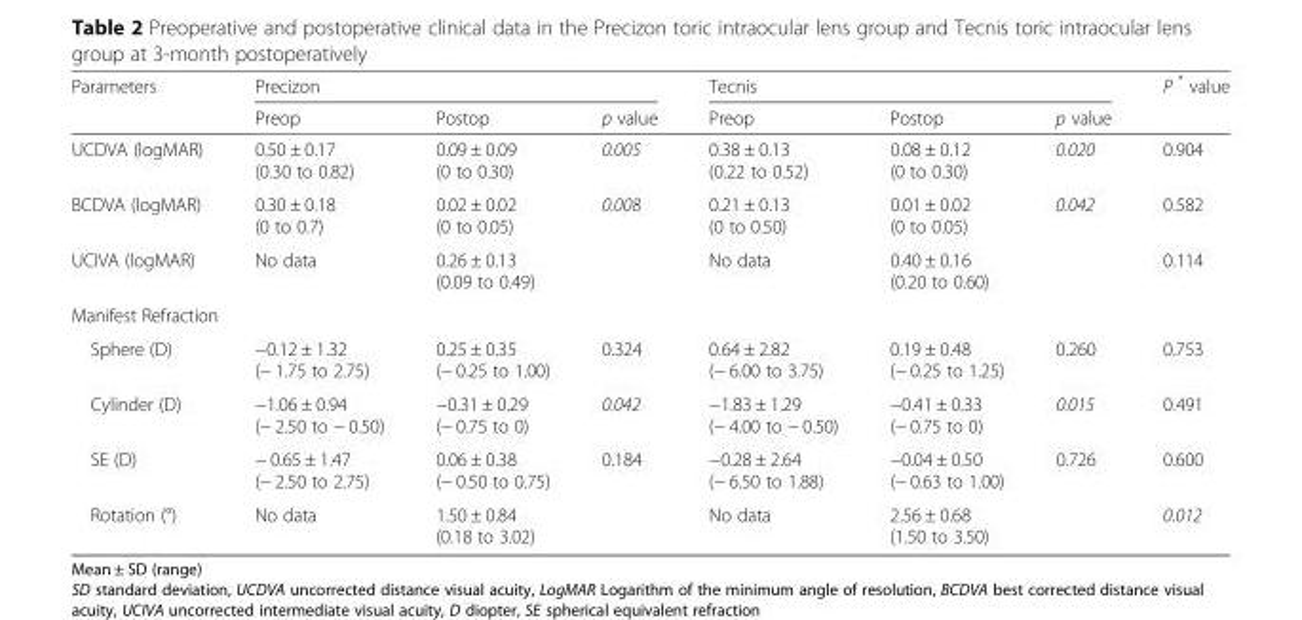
<table><thead><tr><td rowspan="2">Parameters</td><td colspan="3">Precizon</td><td colspan="3">Tecnis</td><td rowspan="2">P * value</td></tr><tr><td>Preop</td><td>Postop</td><td>p value</td><td>Preop</td><td>Postop</td><td>p value</td></tr></thead><tbody><tr><td>UCDVA (logMAR)</td><td>0.50 ± 0.17 (0.30 to 0.82)</td><td>0.09 ± 0.09 (0 to 0.30)</td><td>0.005</td><td>0.38 ± 0.13 (0.22 to 0.52)</td><td>0.08 ± 0.12 (0 to 0.30)</td><td>0.020</td><td>0.904</td></tr><tr><td>BCDVA (logMAR)</td><td>0.30 ± 0.18 (0 to 0.7)</td><td>0.02 ± 0.02 (0 to 0.05)</td><td>0.008</td><td>0.21 ± 0.13 (0 to 0.50)</td><td>0.01 ± 0.02 (0 to 0.05)</td><td>0.042</td><td>0.582</td></tr><tr><td>UCIVA (logMAR)</td><td>No data</td><td>0.26 ± 0.13 (0.09 to 0.49)</td><td></td><td>No data</td><td>0.40 ± 0.16 (0.20 to 0.60)</td><td></td><td>0.114</td></tr><tr><td colspan="8">Manifest Refraction</td></tr><tr><td>Sphere (D)</td><td>−0.12 ± 1.32 (− 1.75 to 2.75)</td><td>0.25 ± 0.35 (− 0.25 to 1.00)</td><td>0.324</td><td>0.64 ± 2.82 (− 6.00 to 3.75)</td><td>0.19 ± 0.48 (− 0.25 to 1.25)</td><td>0.260</td><td>0.753</td></tr><tr><td>Cylinder (D)</td><td>−1.06 ± 0.94 (− 2.50 to − 0.50)</td><td>−0.31 ± 0.29 (− 0.75 to 0)</td><td>0.042</td><td>−1.83 ± 1.29 (− 4.00 to − 0.50)</td><td>−0.41 ± 0.33 (− 0.75 to 0)</td><td>0.015</td><td>0.491</td></tr><tr><td>SE (D)</td><td>− 0.65 ± 1.47 (− 2.50 to 2.75)</td><td>0.06 ± 0.38 (− 0.50 to 0.75)</td><td>0.184</td><td>−0.28 ± 2.64 (− 6.50 to 1.88)</td><td>−0.04 ± 0.50 (− 0.63 to 1.00)</td><td>0.726</td><td>0.600</td></tr><tr><td>Rotation (°)</td><td>No data</td><td>1.50 ± 0.84 (0.18 to 3.02)</td><td></td><td>No data</td><td>2.56 ± 0.68 (1.50 to 3.50)</td><td></td><td>0.012</td></tr></tbody></table>